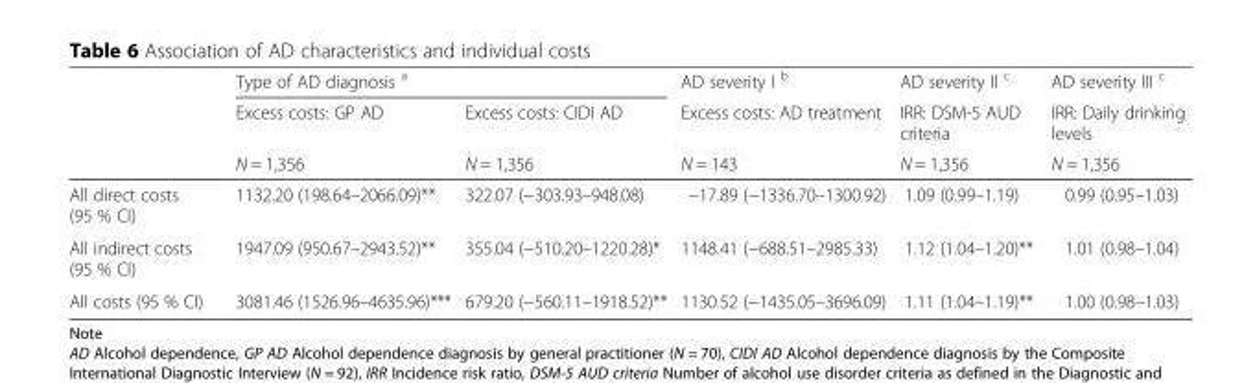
<table><thead><tr><td rowspan="3"></td><td colspan="2">Type of AD diagnosis <sup>a</sup></td><td rowspan="3">AD severity I <sup>b</sup> Excess costs: AD treatment N = 143</td><td rowspan="3">AD severity II <sup>c</sup> IRR: DSM-5 AUD criteria N = 1,356</td><td rowspan="3">AD severity III <sup>c</sup> IRR: Daily drinking levels N = 1,356</td></tr><tr><td rowspan="2">Excess costs: GP AD N = 1,356</td><td rowspan="2">Excess costs: CIDI AD N = 1,356</td></tr><tr></tr></thead><tbody><tr><td>All direct costs (95 % CI)</td><td>1132.20 (198.64–2066.09)**</td><td>322.07 (−303.93–948.08)</td><td>−17.89 (−1336.70–1300.92)</td><td>1.09 (0.99–1.19)</td><td>0.99 (0.95–1.03)</td></tr><tr><td>All indirect costs (95 % CI)</td><td>1947.09 (950.67–2943.52)**</td><td>355.04 (−510.20–1220.28)*</td><td>1148.41 (−688.51–2985.33)</td><td>1.12 (1.04–1.20)**</td><td>1.01 (0.98–1.04)</td></tr><tr><td>All costs (95 % CI)</td><td>3081.46 (1526.96–4635.96)***</td><td>679.20 (−560.11–1918.52)**</td><td>1130.52 (−1435.05–3696.09)</td><td>1.11 (1.04–1.19)**</td><td>1.00 (0.98–1.03)</td></tr></tbody></table>